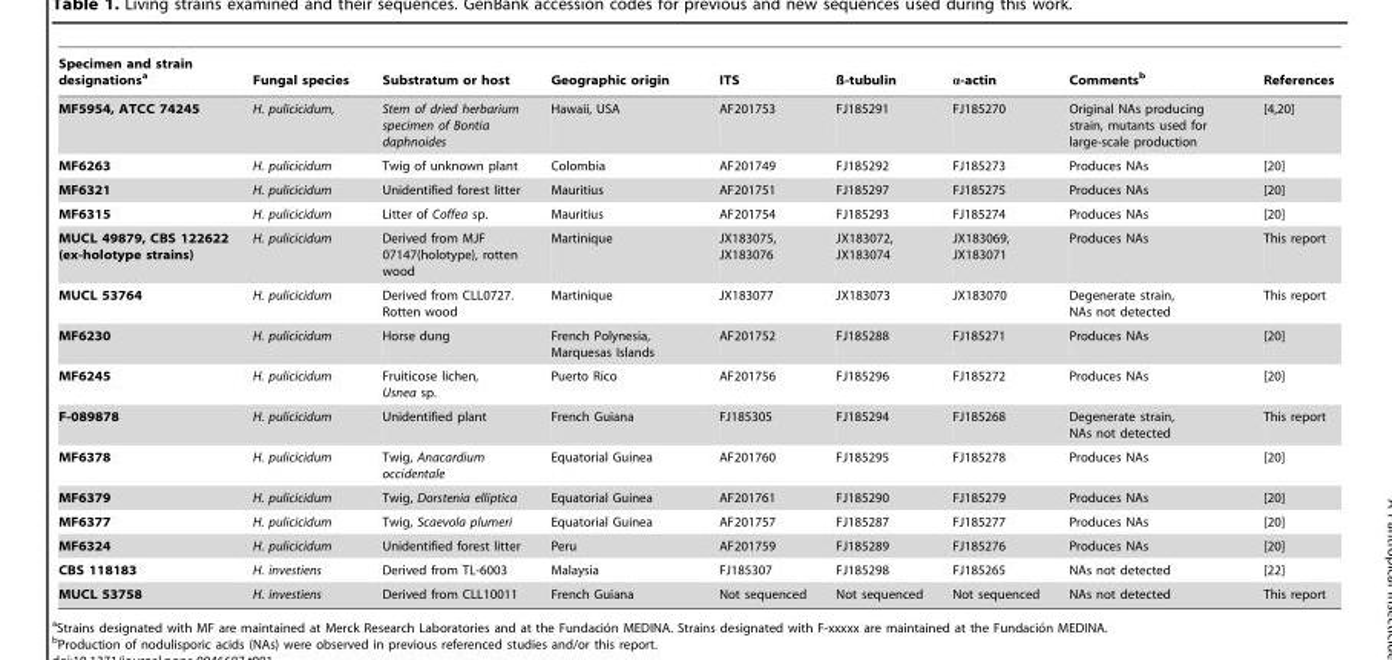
<table><thead><tr><td>Specimen and strain designations<sup>a</sup></td><td>Fungal species</td><td>Substratum or host</td><td>Geographic origin</td><td>ITS</td><td>ß-tubulin</td><td>α-actin</td><td>Comments<sup>b</sup></td><td>References</td></tr></thead><tbody><tr><td>MF5954, ATCC 74245</td><td>H. pulicicidum,</td><td>Stem of dried herbarium specimen of Bontia daphnoides</td><td>Hawaii, USA</td><td>AF201753</td><td>FJ185291</td><td>FJ185270</td><td>Original NAs producing strain, mutants used for large-scale production</td><td>[4,20]</td></tr><tr><td>MF6263</td><td>H. pulicicidum</td><td>Twig of unknown plant</td><td>Colombia</td><td>AF201749</td><td>FJ185292</td><td>FJ185273</td><td>Produces NAs</td><td>[20]</td></tr><tr><td>MF6321</td><td>H. pulicicidum</td><td>Unidentified forest litter</td><td>Mauritius</td><td>AF201751</td><td>FJ185297</td><td>FJ185275</td><td>Produces NAs</td><td>[20]</td></tr><tr><td>MF6315</td><td>H. pulicicidum</td><td>Litter of Coffea sp.</td><td>Mauritius</td><td>AF201754</td><td>FJ185293</td><td>FJ185274</td><td>Produces NAs</td><td>[20]</td></tr><tr><td>MUCL 49879, CBS 122622 (ex-holotype strains)</td><td>H. pulicicidum</td><td>Derived from MJF 07147(holotype), rotten wood</td><td>Martinique</td><td>JX183075, JX183076</td><td>JX183072, JX183074</td><td>JX183069, JX183071</td><td>Produces NAs</td><td>This report</td></tr><tr><td>MUCL 53764</td><td>H. pulicicidum</td><td>Derived from CLL0727. Rotten wood</td><td>Martinique</td><td>JX183077</td><td>JX183073</td><td>JX183070</td><td>Degenerate strain, NAs not detected</td><td>This report</td></tr><tr><td>MF6230</td><td>H. pulicicidum</td><td>Horse dung</td><td>French Polynesia, Marquesas Islands</td><td>AF201752</td><td>FJ185288</td><td>FJ185271</td><td>Produces NAs</td><td>[20]</td></tr><tr><td>MF6245</td><td>H. pulicicidum</td><td>Fruiticose lichen, Usnea sp.</td><td>Puerto Rico</td><td>AF201756</td><td>FJ185296</td><td>FJ185272</td><td>Produces NAs</td><td>[20]</td></tr><tr><td>F-089878</td><td>H. pulicicidum</td><td>Unidentified plant</td><td>French Guiana</td><td>FJ185305</td><td>FJ185294</td><td>FJ185268</td><td>Degenerate strain, NAs not detected</td><td>This report</td></tr><tr><td>MF6378</td><td>H. pulicicidum</td><td>Twig, Anacardium occidentale</td><td>Equatorial Guinea</td><td>AF201760</td><td>FJ185295</td><td>FJ185278</td><td>Produces NAs</td><td>[20]</td></tr><tr><td>MF6379</td><td>H. pulicicidum</td><td>Twig, Dorstenia elliptica</td><td>Equatorial Guinea</td><td>AF201761</td><td>FJ185290</td><td>FJ185279</td><td>Produces NAs</td><td>[20]</td></tr><tr><td>MF6377</td><td>H. pulicicidum</td><td>Twig, Scaevola plumeri</td><td>Equatorial Guinea</td><td>AF201757</td><td>FJ185287</td><td>FJ185277</td><td>Produces NAs</td><td>[20]</td></tr><tr><td>MF6324</td><td>H. pulicicidum</td><td>Unidentified forest litter</td><td>Peru</td><td>AF201759</td><td>FJ185289</td><td>FJ185276</td><td>Produces NAs</td><td>[20]</td></tr><tr><td>CBS 118183</td><td>H. investiens</td><td>Derived from TL-6003</td><td>Malaysia</td><td>FJ185307</td><td>FJ185298</td><td>FJ185265</td><td>NAs not detected</td><td>[22]</td></tr><tr><td>MUCL 53758</td><td>H. investiens</td><td>Derived from CLL10011</td><td>French Guiana</td><td>Not sequenced</td><td>Not sequenced</td><td>Not sequenced</td><td>NAs not detected</td><td>This report</td></tr></tbody></table>